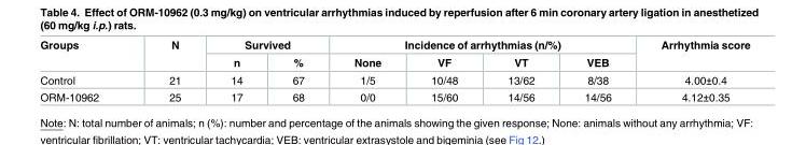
<table><thead><tr><td rowspan="2">Groups</td><td rowspan="2">N</td><td colspan="2">Survived</td><td colspan="4">Incidence of arrhythmias (n/%)</td><td rowspan="2">Arrhythmia score</td></tr><tr><td>n</td><td>%</td><td>None</td><td>VF</td><td>VT</td><td>VEB</td></tr></thead><tbody><tr><td>Control</td><td>21</td><td>14</td><td>67</td><td>1/5</td><td>10/48</td><td>13/62</td><td>8/38</td><td>4.00±0.4</td></tr><tr><td>ORM-10962</td><td>25</td><td>17</td><td>68</td><td>0/0</td><td>15/60</td><td>14/56</td><td>14/56</td><td>4.12±0.35</td></tr></tbody></table>